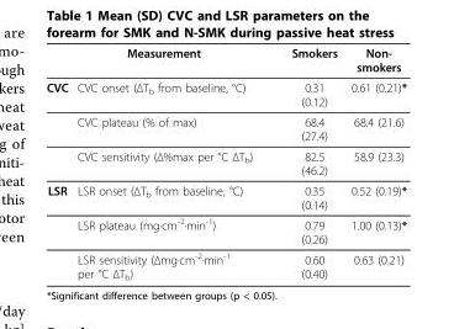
<table><thead><tr><td colspan="2">Measurement</td><td rowspan="2">Smokers 0.31 (0.12)</td><td rowspan="2">Non- smokers 0.61 (0.21)*</td></tr><tr><td>CVC</td><td>CVC onset (ΔTb from baseline, °C)</td></tr></thead><tbody><tr><td></td><td>CVC plateau (% of max)</td><td>68.4 (27.4)</td><td>68.4 (21.6)</td></tr><tr><td></td><td>CVC sensitivity (Δ%max per °C ΔT<sub>b</sub>)</td><td>82.5 (46.2)</td><td>58.9 (23.3)</td></tr><tr><td rowspan="3">LSR</td><td>LSR onset (ΔT<sub>b</sub> from baseline, °C)</td><td>0.35 (0.14)</td><td>0.52 (0.19)*</td></tr><tr><td>LSR plateau (mg·cm<sup>-2</sup>·min<sup>-1</sup>)</td><td>0.79 (0.26)</td><td>1.00 (0.13)*</td></tr><tr><td>LSR sensitivity (Δmg·cm<sup>-2</sup>·min<sup>-1</sup> per °C ΔT<sub>b</sub>)</td><td>0.60 (0.40)</td><td>0.63 (0.21)</td></tr></tbody></table>